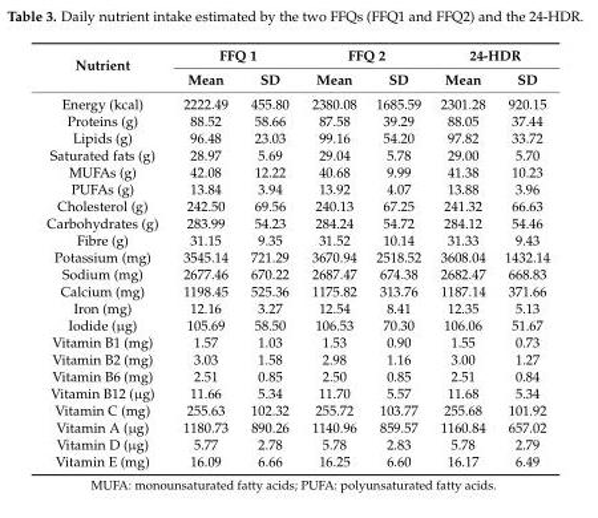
<table><thead><tr><td rowspan="2">Nutrient</td><td colspan="2">FFQ 1</td><td colspan="2">FFQ 2</td><td colspan="2">24-HDR</td></tr><tr><td>Mean</td><td>SD</td><td>Mean</td><td>SD</td><td>Mean</td><td>SD</td></tr></thead><tbody><tr><td>Energy (kcal)</td><td>2222.49</td><td>455.80</td><td>2380.08</td><td>1685.59</td><td>2301.28</td><td>920.15</td></tr><tr><td>Proteins (g)</td><td>88.52</td><td>58.66</td><td>87.58</td><td>39.29</td><td>88.05</td><td>37.44</td></tr><tr><td>Lipids (g)</td><td>96.48</td><td>23.03</td><td>99.16</td><td>54.20</td><td>97.82</td><td>33.72</td></tr><tr><td>Saturated fats (g)</td><td>28.97</td><td>5.69</td><td>29.04</td><td>5.78</td><td>29.00</td><td>5.70</td></tr><tr><td>MUFAs (g)</td><td>42.08</td><td>12.22</td><td>40.68</td><td>9.99</td><td>41.38</td><td>10.23</td></tr><tr><td>PUFAs (g)</td><td>13.84</td><td>3.94</td><td>13.92</td><td>4.07</td><td>13.88</td><td>3.96</td></tr><tr><td>Cholesterol (g)</td><td>242.50</td><td>69.56</td><td>240.13</td><td>67.25</td><td>241.32</td><td>66.63</td></tr><tr><td>Carbohydrates (g)</td><td>283.99</td><td>54.23</td><td>284.24</td><td>54.72</td><td>284.12</td><td>54.46</td></tr><tr><td>Fibre (g)</td><td>31.15</td><td>9.35</td><td>31.52</td><td>10.14</td><td>31.33</td><td>9.43</td></tr><tr><td>Potassium (mg)</td><td>3545.14</td><td>721.29</td><td>3670.94</td><td>2518.52</td><td>3608.04</td><td>1432.14</td></tr><tr><td>Sodium (mg)</td><td>2677.46</td><td>670.22</td><td>2687.47</td><td>674.38</td><td>2682.47</td><td>668.83</td></tr><tr><td>Calcium (mg)</td><td>1198.45</td><td>525.36</td><td>1175.82</td><td>313.76</td><td>1187.14</td><td>371.66</td></tr><tr><td>Iron (mg)</td><td>12.16</td><td>3.27</td><td>12.54</td><td>8.41</td><td>12.35</td><td>5.13</td></tr><tr><td>Iodide (µg)</td><td>105.69</td><td>58.50</td><td>106.53</td><td>70.30</td><td>106.06</td><td>51.67</td></tr><tr><td>Vitamin B1 (mg)</td><td>1.57</td><td>1.03</td><td>1.53</td><td>0.90</td><td>1.55</td><td>0.73</td></tr><tr><td>Vitamin B2 (mg)</td><td>3.03</td><td>1.58</td><td>2.98</td><td>1.16</td><td>3.00</td><td>1.27</td></tr><tr><td>Vitamin B6 (mg)</td><td>2.51</td><td>0.85</td><td>2.50</td><td>0.85</td><td>2.51</td><td>0.84</td></tr><tr><td>Vitamin B12 (µg)</td><td>11.66</td><td>5.34</td><td>11.70</td><td>5.57</td><td>11.68</td><td>5.34</td></tr><tr><td>Vitamin C (mg)</td><td>255.63</td><td>102.32</td><td>255.72</td><td>103.77</td><td>255.68</td><td>101.92</td></tr><tr><td>Vitamin A (µg)</td><td>1180.73</td><td>890.26</td><td>1140.96</td><td>859.57</td><td>1160.84</td><td>657.02</td></tr><tr><td>Vitamin D (µg)</td><td>5.77</td><td>2.78</td><td>5.78</td><td>2.83</td><td>5.78</td><td>2.79</td></tr><tr><td>Vitamin E (mg)</td><td>16.09</td><td>6.66</td><td>16.25</td><td>6.60</td><td>16.17</td><td>6.49</td></tr></tbody></table>